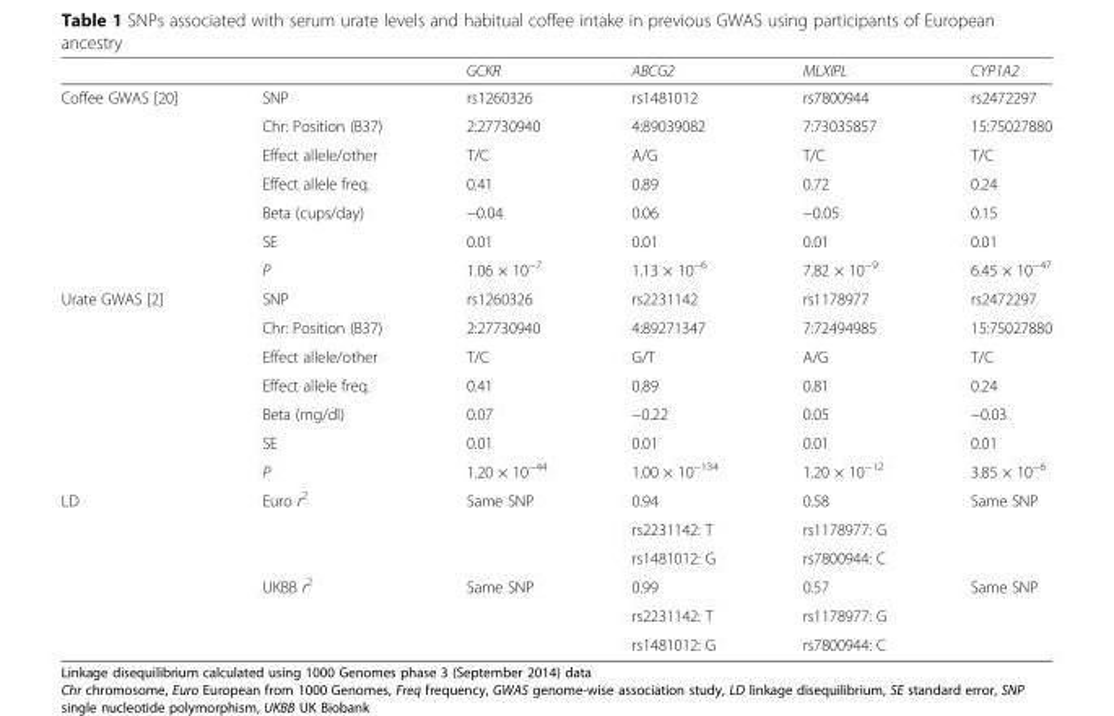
<table><thead><tr><td></td><td></td><td>GCKR</td><td>ABCG2</td><td>MLXIPL</td><td>CYP1A2</td></tr></thead><tbody><tr><td rowspan="7">Coffee GWAS [20]</td><td>SNP</td><td>rs1260326</td><td>rs1481012</td><td>rs7800944</td><td>rs2472297</td></tr><tr><td>Chr: Position (B37)</td><td>2:27730940</td><td>4:89039082</td><td>7:73035857</td><td>15:75027880</td></tr><tr><td>Effect allele/other</td><td>T/C</td><td>A/G</td><td>T/C</td><td>T/C</td></tr><tr><td>Effect allele freq.</td><td>0.41</td><td>0.89</td><td>0.72</td><td>0.24</td></tr><tr><td>Beta (cups/day)</td><td>−0.04</td><td>0.06</td><td>−0.05</td><td>0.15</td></tr><tr><td>SE</td><td>0.01</td><td>0.01</td><td>0.01</td><td>0.01</td></tr><tr><td>P</td><td>1.06 × 10<sup>−7</sup></td><td>1.13 × 10<sup>−6</sup></td><td>7.82 × 10<sup>−9</sup></td><td>6.45 × 10<sup>−47</sup></td></tr><tr><td rowspan="7">Urate GWAS [2]</td><td>SNP</td><td>rs1260326</td><td>rs2231142</td><td>rs1178977</td><td>rs2472297</td></tr><tr><td>Chr: Position (B37)</td><td>2:27730940</td><td>4:89271347</td><td>7:72494985</td><td>15:75027880</td></tr><tr><td>Effect allele/other</td><td>T/C</td><td>G/T</td><td>A/G</td><td>T/C</td></tr><tr><td>Effect allele freq.</td><td>0.41</td><td>0.89</td><td>0.81</td><td>0.24</td></tr><tr><td>Beta (mg/dl)</td><td>0.07</td><td>−0.22</td><td>0.05</td><td>−0.03</td></tr><tr><td>SE</td><td>0.01</td><td>0.01</td><td>0.01</td><td>0.01</td></tr><tr><td>P</td><td>1.20 × 10<sup>−44</sup></td><td>1.00 × 10<sup>−134</sup></td><td>1.20 × 10<sup>−12</sup></td><td>3.85 × 10<sup>−6</sup></td></tr><tr><td rowspan="6">LD</td><td rowspan="3">Euro r<sup>2</sup></td><td>Same SNP</td><td>0.94</td><td>0.58</td><td>Same SNP</td></tr><tr><td></td><td>rs2231142: T</td><td>rs1178977: G</td><td></td></tr><tr><td></td><td>rs1481012: G</td><td>rs7800944: C</td><td></td></tr><tr><td rowspan="3">UKBB r<sup>2</sup></td><td>Same SNP</td><td>0.99</td><td>0.57</td><td>Same SNP</td></tr><tr><td></td><td>rs2231142: T</td><td>rs1178977: G</td><td></td></tr><tr><td></td><td>rs1481012: G</td><td>rs7800944: C</td><td></td></tr></tbody></table>